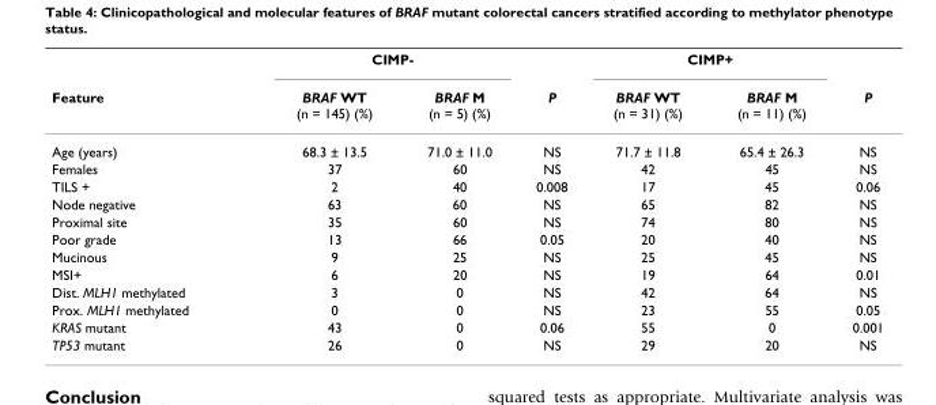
<table><thead><tr><td rowspan="2">Feature</td><td colspan="2">CIMP-</td><td rowspan="2">P</td><td colspan="2">CIMP+</td><td rowspan="2">P</td></tr><tr><td>BRAF WT (n = 145) (%)</td><td>BRAF M (n = 5) (%)</td><td>BRAF WT (n = 31) (%)</td><td>BRAF M (n = 11) (%)</td></tr></thead><tbody><tr><td>Age (years)</td><td>68.3 ± 13.5</td><td>71.0 ± 11.0</td><td>NS</td><td>71.7 ± 11.8</td><td>65.4 ± 26.3</td><td>NS</td></tr><tr><td>Females</td><td>37</td><td>60</td><td>NS</td><td>42</td><td>45</td><td>NS</td></tr><tr><td>TILS +</td><td>2</td><td>40</td><td>0.008</td><td>17</td><td>45</td><td>0.06</td></tr><tr><td>Node negative</td><td>63</td><td>60</td><td>NS</td><td>65</td><td>82</td><td>NS</td></tr><tr><td>Proximal site</td><td>35</td><td>60</td><td>NS</td><td>74</td><td>80</td><td>NS</td></tr><tr><td>Poor grade</td><td>13</td><td>66</td><td>0.05</td><td>20</td><td>40</td><td>NS</td></tr><tr><td>Mucinous</td><td>9</td><td>25</td><td>NS</td><td>25</td><td>45</td><td>NS</td></tr><tr><td>MSI+</td><td>6</td><td>20</td><td>NS</td><td>19</td><td>64</td><td>0.01</td></tr><tr><td>Dist. MLH1 methylated</td><td>3</td><td>0</td><td>NS</td><td>42</td><td>64</td><td>NS</td></tr><tr><td>Prox. MLH1 methylated</td><td>0</td><td>0</td><td>NS</td><td>23</td><td>55</td><td>0.05</td></tr><tr><td>KRAS mutant</td><td>43</td><td>0</td><td>0.06</td><td>55</td><td>0</td><td>0.001</td></tr><tr><td>TP53 mutant</td><td>26</td><td>0</td><td>NS</td><td>29</td><td>20</td><td>NS</td></tr></tbody></table>